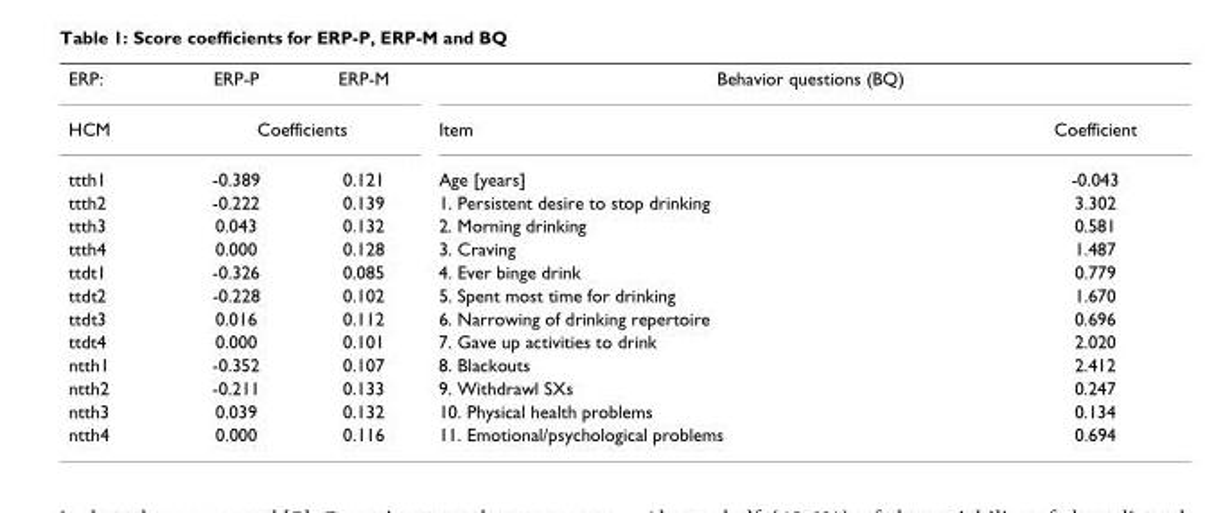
<table><tbody><tr><td>ERP:</td><td>ERP-P</td><td>ERP-M</td><td colspan="2">Behavior questions (BQ)</td></tr><tr><td>HCM</td><td colspan="2">Coefficients</td><td>Item</td><td>Coefficient</td></tr><tr><td>ttth1</td><td>-0.389</td><td>0.121</td><td>Age [years]</td><td>-0.043</td></tr><tr><td>ttth2</td><td>-0.222</td><td>0.139</td><td>1. Persistent desire to stop drinking</td><td>3.302</td></tr><tr><td>ttth3</td><td>0.043</td><td>0.132</td><td>2. Morning drinking</td><td>0.581</td></tr><tr><td>ttth4</td><td>0.000</td><td>0.128</td><td>3. Craving</td><td>1.487</td></tr><tr><td>ttdt1</td><td>-0.326</td><td>0.085</td><td>4. Ever binge drink</td><td>0.779</td></tr><tr><td>ttdt2</td><td>-0.228</td><td>0.102</td><td>5. Spent most time for drinking</td><td>1.670</td></tr><tr><td>ttdt3</td><td>0.016</td><td>0.112</td><td>6. Narrowing of drinking repertoire</td><td>0.696</td></tr><tr><td>ttdt4</td><td>0.000</td><td>0.101</td><td>7. Gave up activities to drink</td><td>2.020</td></tr><tr><td>ntth1</td><td>-0.352</td><td>0.107</td><td>8. Blackouts</td><td>2.412</td></tr><tr><td>ntth2</td><td>-0.211</td><td>0.133</td><td>9. Withdrawl SXs</td><td>0.247</td></tr><tr><td>ntth3</td><td>0.039</td><td>0.132</td><td>10. Physical health problems</td><td>0.134</td></tr><tr><td>ntth4</td><td>0.000</td><td>0.116</td><td>11. Emotional/psychological problems</td><td>0.694</td></tr></tbody></table>